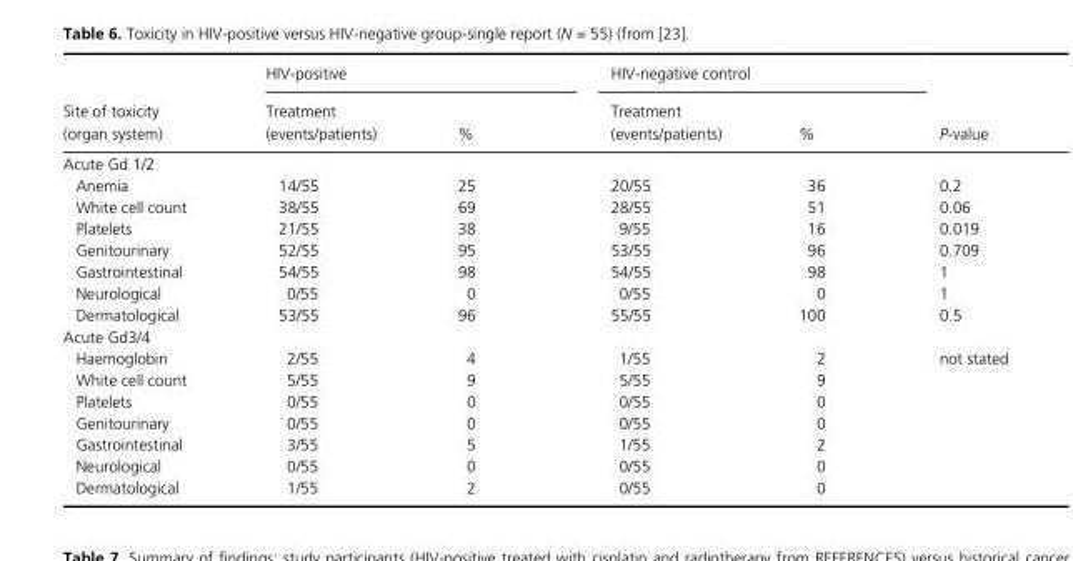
<table><thead><tr><td rowspan="2">Site of toxicity (organ system)</td><td colspan="2">HIV- positive</td><td colspan="2">HIV- negative control</td><td rowspan="2">P- value</td></tr><tr><td>Treatment (events/patients)</td><td>%</td><td>Treatment (events/patients)</td><td>%</td></tr></thead><tbody><tr><td colspan="6">Acute Gd 1/2</td></tr><tr><td>Anemia</td><td>14/55</td><td>25</td><td>20/55</td><td>36</td><td>0.2</td></tr><tr><td>White cell count</td><td>38/55</td><td>69</td><td>28/55</td><td>51</td><td>0.06</td></tr><tr><td>Platelets</td><td>21/55</td><td>38</td><td>9/55</td><td>16</td><td>0.019</td></tr><tr><td>Genitourinary</td><td>52/55</td><td>95</td><td>53/55</td><td>96</td><td>0.709</td></tr><tr><td>Gastrointestinal</td><td>54/55</td><td>98</td><td>54/55</td><td>98</td><td>1</td></tr><tr><td>Neurological</td><td>0/55</td><td>0</td><td>0/55</td><td>0</td><td>1</td></tr><tr><td>Dermatological</td><td>53/55</td><td>96</td><td>55/55</td><td>100</td><td>0.5</td></tr><tr><td colspan="6">Acute Gd3/4</td></tr><tr><td>Haemoglobin</td><td>2/55</td><td>4</td><td>1/55</td><td>2</td><td>not stated</td></tr><tr><td>White cell count</td><td>5/55</td><td>9</td><td>5/55</td><td>9</td><td></td></tr><tr><td>Platelets</td><td>0/55</td><td>0</td><td>0/55</td><td>0</td><td></td></tr><tr><td>Genitourinary</td><td>0/55</td><td>0</td><td>0/55</td><td>0</td><td></td></tr><tr><td>Gastrointestinal</td><td>3/55</td><td>5</td><td>1/55</td><td>2</td><td></td></tr><tr><td>Neurological</td><td>0/55</td><td>0</td><td>0/55</td><td>0</td><td></td></tr><tr><td>Dermatological</td><td>1/55</td><td>2</td><td>0/55</td><td>0</td><td></td></tr></tbody></table>